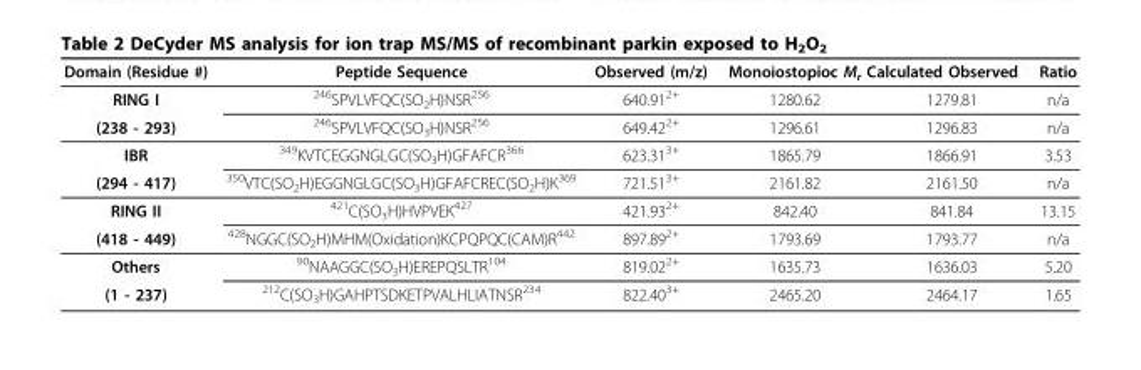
<table><thead><tr><td rowspan="2">Domain (Residue #) RING I</td><td rowspan="2">Peptide Sequence 246SPVLVFQC(SO2H)NSR256</td><td rowspan="2">Observed (m/z) 640.912+</td><td colspan="2">Monoiostopioc Mr Calculated Observed</td><td rowspan="2">Ratio n/a</td></tr><tr><td>1280.62</td><td>1279.81</td></tr></thead><tbody><tr><td>(238 - 293)</td><td>246SPVLVFQC(SO3H)NSR256</td><td>649.422+</td><td>1296.61</td><td>1296.83</td><td>n/a</td></tr><tr><td>IBR</td><td><sup>349</sup>KVTCEGGNGLGC(SO<sub>3</sub>H)GFAFCR<sup>366</sup></td><td>623.31<sup>3+</sup></td><td>1865.79</td><td>1866.91</td><td>3.53</td></tr><tr><td>(294 - 417)</td><td><sup>350</sup>VTC(SO<sub>2</sub>H)EGGNGLGC(SO<sub>3</sub>H)GFAFCREC(SO<sub>2</sub>H)K<sup>369</sup></td><td>721.51<sup>3+</sup></td><td>2161.82</td><td>2161.50</td><td>n/a</td></tr><tr><td>RING II</td><td><sup>421</sup>C(SO<sub>3</sub>H)HVPVEK<sup>427</sup></td><td>421.93<sup>2+</sup></td><td>842.40</td><td>841.84</td><td>13.15</td></tr><tr><td>(418 - 449)</td><td><sup>428</sup>NGGC(SO<sub>2</sub>H)MHM(Oxidation)KCPQPQC(CAM)R<sup>442</sup></td><td>897.89<sup>2+</sup></td><td>1793.69</td><td>1793.77</td><td>n/a</td></tr><tr><td>Others</td><td><sup>90</sup>NAAGGC(SO<sub>3</sub>H)EREPQSLTR<sup>104</sup></td><td>819.02<sup>2+</sup></td><td>1635.73</td><td>1636.03</td><td>5.20</td></tr><tr><td>(1 - 237)</td><td><sup>212</sup>C(SO<sub>3</sub>H)GAHPTSDKETPVALHLIATNSR<sup>234</sup></td><td>822.40<sup>3+</sup></td><td>2465.20</td><td>2464.17</td><td>1.65</td></tr></tbody></table>